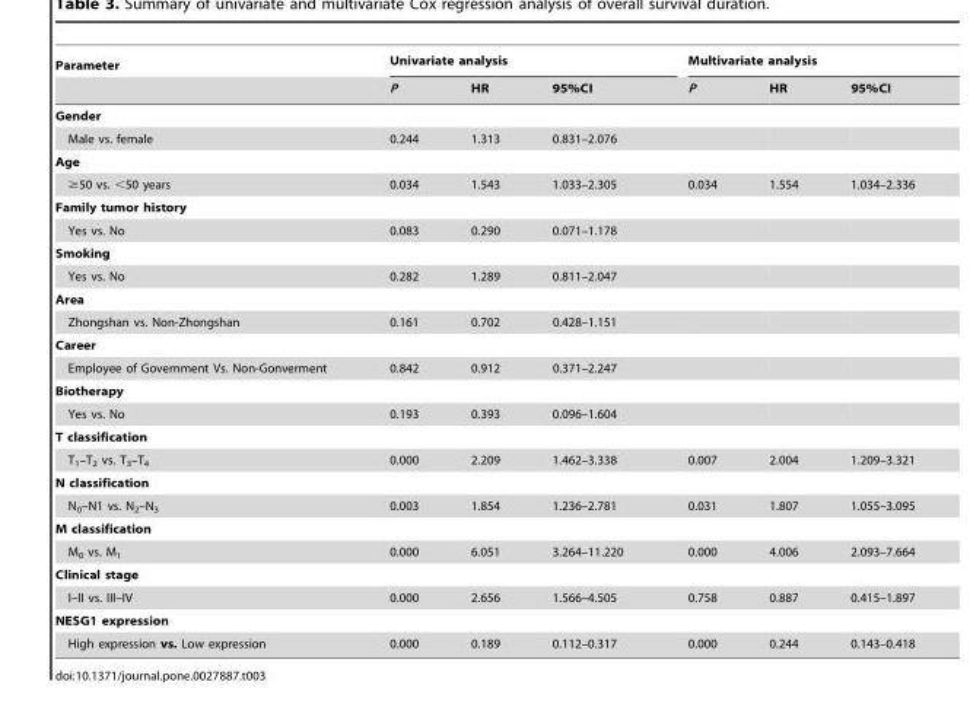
<table><thead><tr><td rowspan="2">Parameter</td><td colspan="3">Univariate analysis</td><td colspan="3">Multivariate analysis</td></tr><tr><td>P</td><td>HR</td><td>95%CI</td><td>P</td><td>HR</td><td>95%CI</td></tr></thead><tbody><tr><td colspan="7">Gender</td></tr><tr><td>Male vs. female</td><td>0.244</td><td>1.313</td><td>0.831–2.076</td><td></td><td></td><td></td></tr><tr><td colspan="7">Age</td></tr><tr><td>≥50 vs. &lt;50 years</td><td>0.034</td><td>1.543</td><td>1.033–2.305</td><td>0.034</td><td>1.554</td><td>1.034–2.336</td></tr><tr><td colspan="7">Family tumor history</td></tr><tr><td>Yes vs. No</td><td>0.083</td><td>0.290</td><td>0.071–1.178</td><td></td><td></td><td></td></tr><tr><td colspan="7">Smoking</td></tr><tr><td>Yes vs. No</td><td>0.282</td><td>1.289</td><td>0.811–2.047</td><td></td><td></td><td></td></tr><tr><td colspan="7">Area</td></tr><tr><td>Zhongshan vs. Non-Zhongshan</td><td>0.161</td><td>0.702</td><td>0.428–1.151</td><td></td><td></td><td></td></tr><tr><td colspan="7">Career</td></tr><tr><td>Employee of Government Vs. Non-Gonverment</td><td>0.842</td><td>0.912</td><td>0.371–2.247</td><td></td><td></td><td></td></tr><tr><td colspan="7">Biotherapy</td></tr><tr><td>Yes vs. No</td><td>0.193</td><td>0.393</td><td>0.096–1.604</td><td></td><td></td><td></td></tr><tr><td colspan="7">T classification</td></tr><tr><td>T<sub>1</sub>–T<sub>2</sub> vs. T<sub>3</sub>–T<sub>4</sub></td><td>0.000</td><td>2.209</td><td>1.462–3.338</td><td>0.007</td><td>2.004</td><td>1.209–3.321</td></tr><tr><td colspan="7">N classification</td></tr><tr><td>N<sub>0</sub>–N1 vs. N<sub>2</sub>–N<sub>3</sub></td><td>0.003</td><td>1.854</td><td>1.236–2.781</td><td>0.031</td><td>1.807</td><td>1.055–3.095</td></tr><tr><td colspan="7">M classification</td></tr><tr><td>M<sub>0</sub> vs. M<sub>1</sub></td><td>0.000</td><td>6.051</td><td>3.264–11.220</td><td>0.000</td><td>4.006</td><td>2.093–7.664</td></tr><tr><td colspan="7">Clinical stage</td></tr><tr><td>I–II vs. III–IV</td><td>0.000</td><td>2.656</td><td>1.566–4.505</td><td>0.758</td><td>0.887</td><td>0.415–1.897</td></tr><tr><td colspan="7">NESG1 expression</td></tr><tr><td>High expression vs. Low expression</td><td>0.000</td><td>0.189</td><td>0.112–0.317</td><td>0.000</td><td>0.244</td><td>0.143–0.418</td></tr></tbody></table>